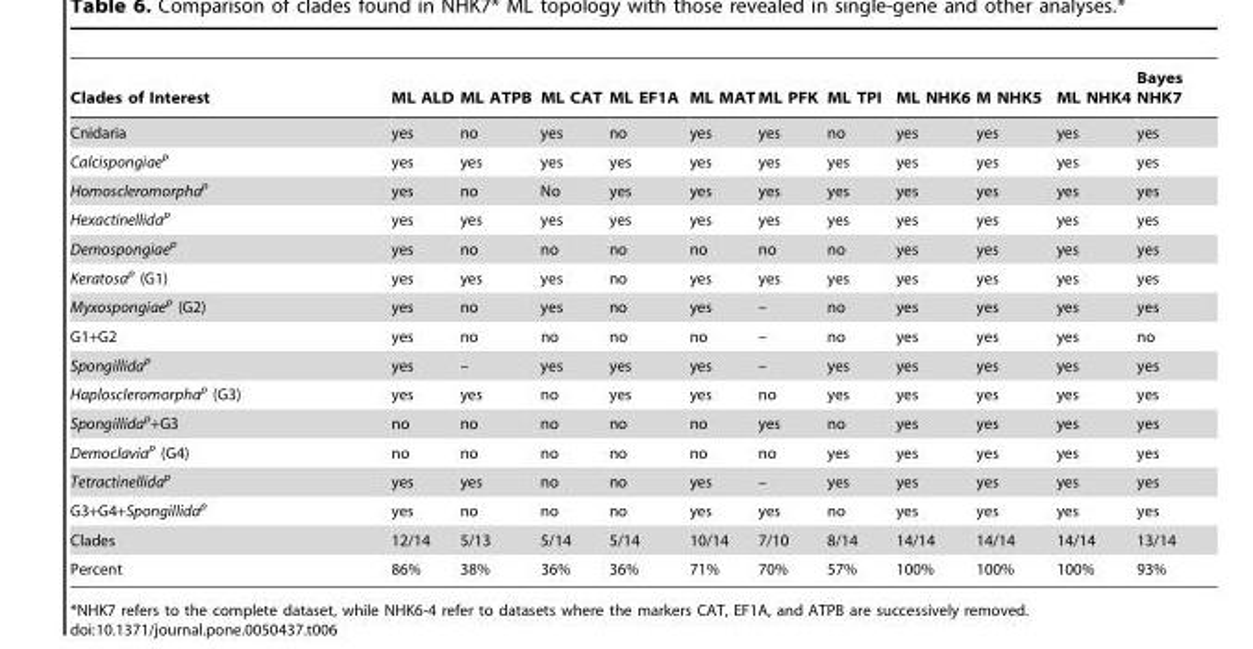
<table><thead><tr><td>Clades of Interest</td><td>ML ALD</td><td>ML ATPB</td><td>ML CAT</td><td>ML EF1A</td><td>ML MAT</td><td>ML PFK</td><td>ML TPI</td><td>ML NHK6</td><td>M NHK5</td><td>ML NHK4</td><td>Bayes NHK7</td></tr></thead><tbody><tr><td>Cnidaria</td><td>yes</td><td>no</td><td>yes</td><td>no</td><td>yes</td><td>yes</td><td>no</td><td>yes</td><td>yes</td><td>yes</td><td>yes</td></tr><tr><td>Calcispongiae<sup>p</sup></td><td>yes</td><td>yes</td><td>yes</td><td>yes</td><td>yes</td><td>yes</td><td>yes</td><td>yes</td><td>yes</td><td>yes</td><td>yes</td></tr><tr><td>Homoscleromorpha<sup>p</sup></td><td>yes</td><td>no</td><td>No</td><td>yes</td><td>yes</td><td>yes</td><td>yes</td><td>yes</td><td>yes</td><td>yes</td><td>yes</td></tr><tr><td>Hexactinellida<sup>p</sup></td><td>yes</td><td>yes</td><td>yes</td><td>yes</td><td>yes</td><td>yes</td><td>yes</td><td>yes</td><td>yes</td><td>yes</td><td>yes</td></tr><tr><td>Demospongiae<sup>p</sup></td><td>yes</td><td>no</td><td>no</td><td>no</td><td>no</td><td>no</td><td>no</td><td>yes</td><td>yes</td><td>yes</td><td>yes</td></tr><tr><td>Keratosa<sup>p</sup> (G1)</td><td>yes</td><td>yes</td><td>yes</td><td>no</td><td>yes</td><td>yes</td><td>yes</td><td>yes</td><td>yes</td><td>yes</td><td>yes</td></tr><tr><td>Myxospongiae<sup>p</sup> (G2)</td><td>yes</td><td>no</td><td>yes</td><td>no</td><td>yes</td><td>–</td><td>no</td><td>yes</td><td>yes</td><td>yes</td><td>yes</td></tr><tr><td>G1+G2</td><td>yes</td><td>no</td><td>no</td><td>no</td><td>no</td><td>–</td><td>no</td><td>yes</td><td>yes</td><td>yes</td><td>no</td></tr><tr><td>Spongillida<sup>p</sup></td><td>yes</td><td>–</td><td>yes</td><td>yes</td><td>yes</td><td>–</td><td>yes</td><td>yes</td><td>yes</td><td>yes</td><td>yes</td></tr><tr><td>Haploscleromorpha<sup>p</sup> (G3)</td><td>yes</td><td>yes</td><td>no</td><td>yes</td><td>yes</td><td>no</td><td>yes</td><td>yes</td><td>yes</td><td>yes</td><td>yes</td></tr><tr><td>Spongillida<sup>p</sup>+G3</td><td>no</td><td>no</td><td>no</td><td>no</td><td>no</td><td>yes</td><td>no</td><td>yes</td><td>yes</td><td>yes</td><td>yes</td></tr><tr><td>Democlavia<sup>p</sup> (G4)</td><td>no</td><td>no</td><td>no</td><td>no</td><td>no</td><td>no</td><td>yes</td><td>yes</td><td>yes</td><td>yes</td><td>yes</td></tr><tr><td>Tetractinellida<sup>p</sup></td><td>yes</td><td>yes</td><td>no</td><td>no</td><td>yes</td><td>–</td><td>yes</td><td>yes</td><td>yes</td><td>yes</td><td>yes</td></tr><tr><td>G3+G4+Spongillida<sup>p</sup></td><td>yes</td><td>no</td><td>no</td><td>no</td><td>yes</td><td>yes</td><td>no</td><td>yes</td><td>yes</td><td>yes</td><td>yes</td></tr><tr><td>Clades</td><td>12/14</td><td>5/13</td><td>5/14</td><td>5/14</td><td>10/14</td><td>7/10</td><td>8/14</td><td>14/14</td><td>14/14</td><td>14/14</td><td>13/14</td></tr><tr><td>Percent</td><td>86%</td><td>38%</td><td>36%</td><td>36%</td><td>71%</td><td>70%</td><td>57%</td><td>100%</td><td>100%</td><td>100%</td><td>93%</td></tr></tbody></table>